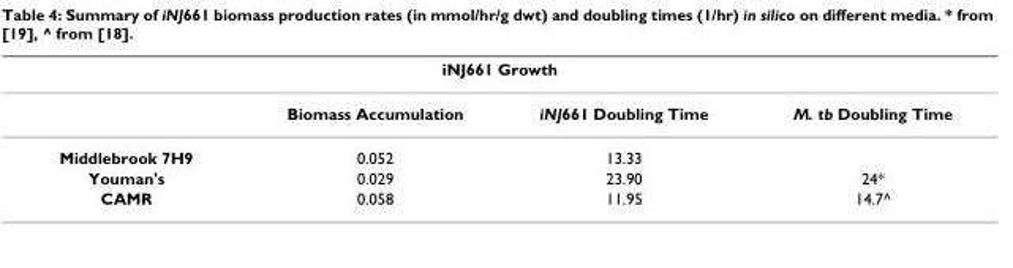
<table><thead><tr><td colspan="4">iNJ661 Growth</td></tr><tr><td></td><td>Biomass Accumulation</td><td>iNJ661 Doubling Time</td><td>M. tb Doubling Time</td></tr></thead><tbody><tr><td>Middlebrook 7H9</td><td>0.052</td><td>13.33</td><td></td></tr><tr><td>Youman&#x27;s</td><td>0.029</td><td>23.90</td><td>24*</td></tr><tr><td>CAMR</td><td>0.058</td><td>11.95</td><td>14.7^</td></tr></tbody></table>